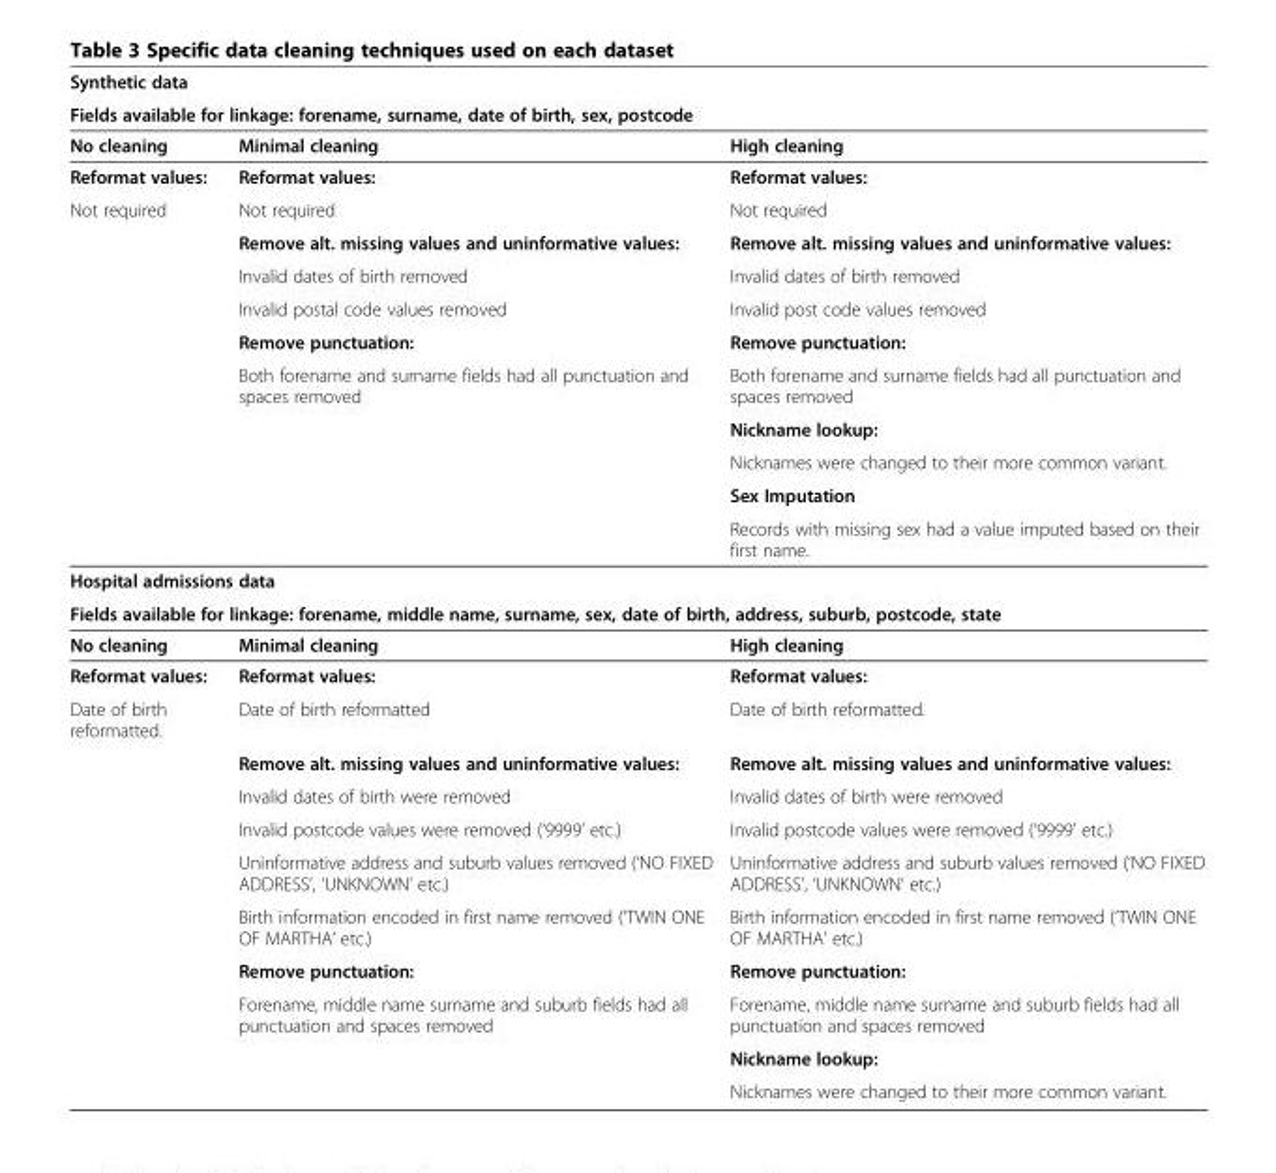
<table><tbody><tr><td colspan="3">Synthetic data</td></tr><tr><td colspan="3">Fields available for linkage: forename, surname, date of birth, sex, postcode</td></tr><tr><td>No cleaning</td><td>Minimal cleaning</td><td>High cleaning</td></tr><tr><td>Reformat values:</td><td>Reformat values:</td><td>Reformat values:</td></tr><tr><td rowspan="10">Not required</td><td>Not required</td><td>Not required</td></tr><tr><td>Remove alt. missing values and uninformative values:</td><td>Remove alt. missing values and uninformative values:</td></tr><tr><td>Invalid dates of birth removed</td><td>Invalid dates of birth removed</td></tr><tr><td>Invalid postal code values removed</td><td>Invalid post code values removed</td></tr><tr><td>Remove punctuation:</td><td>Remove punctuation:</td></tr><tr><td>Both forename and surname fields had all punctuation and spaces removed</td><td>Both forename and surname fields had all punctuation and spaces removed</td></tr><tr><td></td><td>Nickname lookup:</td></tr><tr><td></td><td>Nicknames were changed to their more common variant.</td></tr><tr><td></td><td>Sex Imputation</td></tr><tr><td></td><td>Records with missing sex had a value imputed based on their first name.</td></tr><tr><td colspan="3">Hospital admissions data</td></tr><tr><td colspan="3">Fields available for linkage: forename, middle name, surname, sex, date of birth, address, suburb, postcode, state</td></tr><tr><td>No cleaning</td><td>Minimal cleaning</td><td>High cleaning</td></tr><tr><td>Reformat values:</td><td>Reformat values:</td><td>Reformat values:</td></tr><tr><td rowspan="10">Date of birth reformatted.</td><td>Date of birth reformatted</td><td>Date of birth reformatted.</td></tr><tr><td>Remove alt. missing values and uninformative values:</td><td>Remove alt. missing values and uninformative values:</td></tr><tr><td>Invalid dates of birth were removed</td><td>Invalid dates of birth were removed</td></tr><tr><td>Invalid postcode values were removed (‘9999’ etc.)</td><td>Invalid postcode values were removed (‘9999’ etc.)</td></tr><tr><td>Uninformative address and suburb values removed (‘NO FIXED ADDRESS’, ‘UNKNOWN’ etc.)</td><td>Uninformative address and suburb values removed (‘NO FIXED ADDRESS’, ‘UNKNOWN’ etc.)</td></tr><tr><td>Birth information encoded in first name removed (‘TWIN ONE OF MARTHA’ etc.)</td><td>Birth information encoded in first name removed (‘TWIN ONE OF MARTHA’ etc.)</td></tr><tr><td>Remove punctuation:</td><td>Remove punctuation:</td></tr><tr><td>Forename, middle name surname and suburb fields had all punctuation and spaces removed</td><td>Forename, middle name surname and suburb fields had all punctuation and spaces removed</td></tr><tr><td></td><td>Nickname lookup:</td></tr><tr><td></td><td>Nicknames were changed to their more common variant.</td></tr></tbody></table>